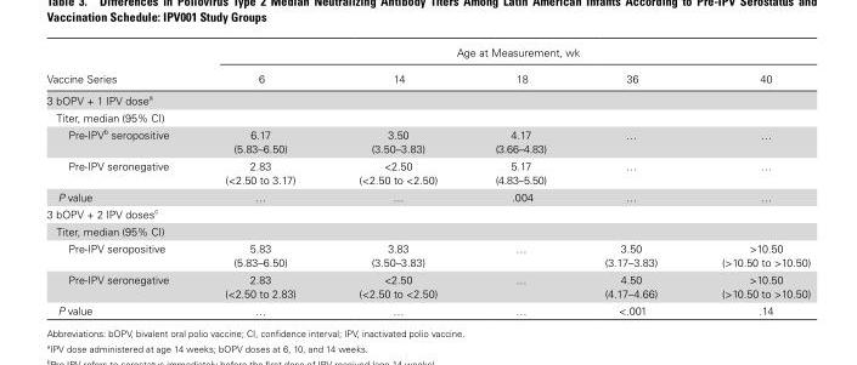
<table><thead><tr><td rowspan="2">Vaccine Series</td><td colspan="5">Age at Measurement, wk</td></tr><tr><td>6</td><td>14</td><td>18</td><td>36</td><td>40</td></tr></thead><tbody><tr><td colspan="6">3 bOPV + 1 IPV dose<sup>a</sup></td></tr><tr><td colspan="6">Titer, median (95% CI)</td></tr><tr><td>Pre-IPV<sup>b</sup> seropositive</td><td>6.17 (5.83–6.50)</td><td>3.50 (3.50–3.83)</td><td>4.17 (3.66–4.83)</td><td>…</td><td>…</td></tr><tr><td>Pre-IPV seronegative</td><td>2.83 (&lt;2.50 to 3.17)</td><td>&lt;2.50 (&lt;2.50 to &lt;2.50)</td><td>5.17 (4.83–5.50)</td><td>…</td><td>…</td></tr><tr><td>P value</td><td>…</td><td>…</td><td>.004</td><td>…</td><td>…</td></tr><tr><td colspan="6">3 bOPV + 2 IPV doses<sup>c</sup></td></tr><tr><td colspan="6">Titer, median (95% CI)</td></tr><tr><td>Pre-IPV seropositive</td><td>5.83 (5.83–6.50)</td><td>3.83 (3.50–3.83)</td><td>…</td><td>3.50 (3.17–3.83)</td><td>&gt;10.50 (&gt;10.50 to &gt;10.50)</td></tr><tr><td>Pre-IPV seronegative</td><td>2.83 (&lt;2.50 to 2.83)</td><td>&lt;2.50 (&lt;2.50 to &lt;2.50)</td><td>…</td><td>4.50 (4.17–4.66)</td><td>&gt;10.50 (&gt;10.50 to &gt;10.50)</td></tr><tr><td>P value</td><td>…</td><td>…</td><td>…</td><td>&lt;.001</td><td>.14</td></tr></tbody></table>